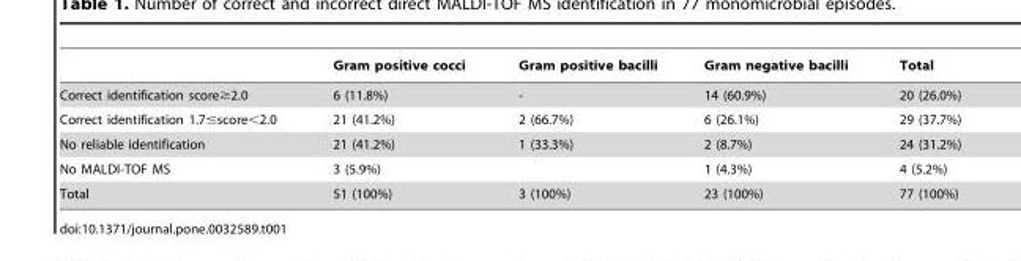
<table><thead><tr><td></td><td>Gram positive cocci</td><td>Gram positive bacilli</td><td>Gram negative bacilli</td><td>Total</td></tr></thead><tbody><tr><td>Correct identification score≥2.0</td><td>6 (11.8%)</td><td>-</td><td>14 (60.9%)</td><td>20 (26.0%)</td></tr><tr><td>Correct identification 1.7≤score&lt;2.0</td><td>21 (41.2%)</td><td>2 (66.7%)</td><td>6 (26.1%)</td><td>29 (37.7%)</td></tr><tr><td>No reliable identification</td><td>21 (41.2%)</td><td>1 (33.3%)</td><td>2 (8.7%)</td><td>24 (31.2%)</td></tr><tr><td>No MALDI-TOF MS</td><td>3 (5.9%)</td><td></td><td>1 (4.3%)</td><td>4 (5.2%)</td></tr><tr><td>Total</td><td>51 (100%)</td><td>3 (100%)</td><td>23 (100%)</td><td>77 (100%)</td></tr></tbody></table>